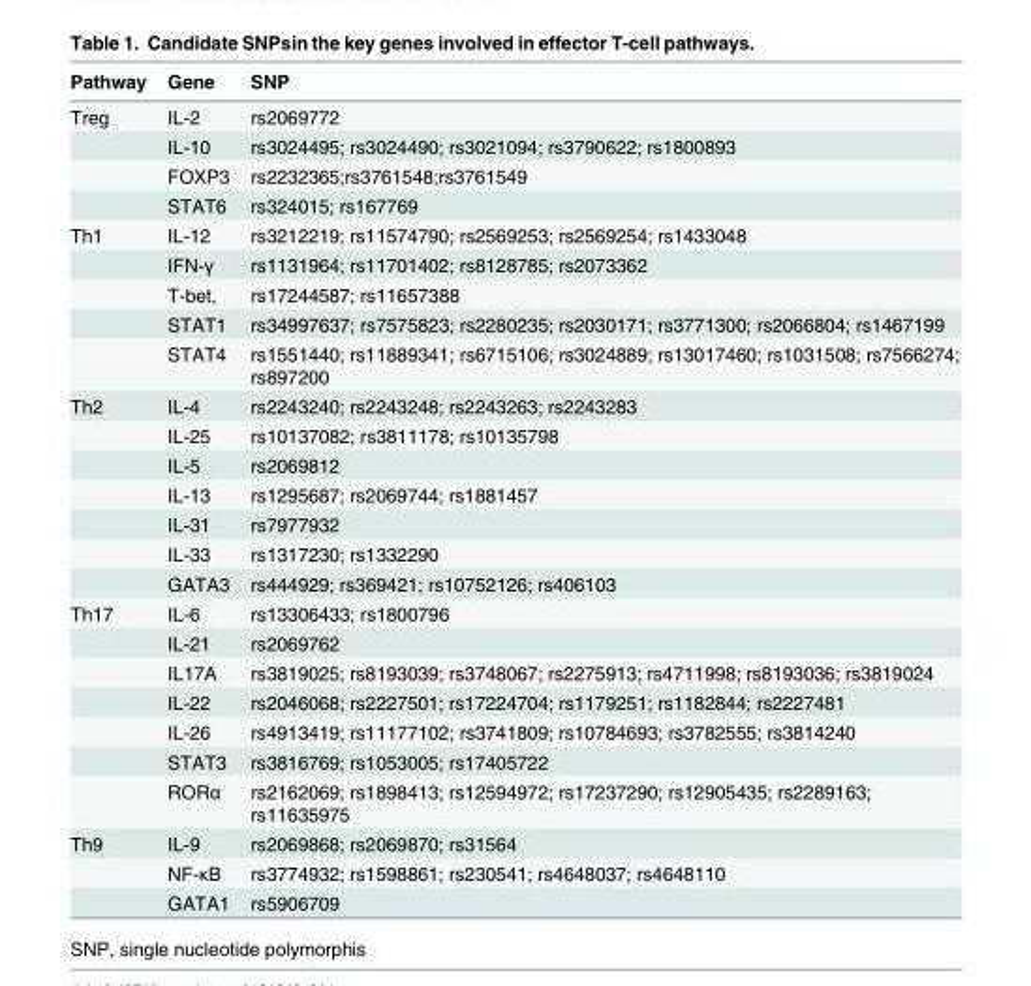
<table><thead><tr><td>Pathway</td><td>Gene</td><td>SNP</td></tr></thead><tbody><tr><td rowspan="4">Treg</td><td>IL-2</td><td>rs2069772</td></tr><tr><td>IL-10</td><td>rs3024495; rs3024490; rs3021094; rs3790622; rs1800893</td></tr><tr><td>FOXP3</td><td>rs2232365;rs3761548;rs3761549</td></tr><tr><td>STAT6</td><td>rs324015; rs167769</td></tr><tr><td rowspan="5">Th1</td><td>IL-12</td><td>rs3212219; rs11574790; rs2569253; rs2569254; rs1433048</td></tr><tr><td>IFN-γ</td><td>rs1131964; rs11701402; rs8128785; rs2073362</td></tr><tr><td>T-bet,</td><td>rs17244587; rs11657388</td></tr><tr><td>STAT1</td><td>rs34997637; rs7575823; rs2280235; rs2030171; rs3771300; rs2066804; rs1467199</td></tr><tr><td>STAT4</td><td>rs1551440; rs11889341; rs6715106; rs3024889; rs13017460; rs1031508; rs7566274; rs897200</td></tr><tr><td rowspan="7">Th2</td><td>IL-4</td><td>rs2243240; rs2243248; rs2243263; rs2243283</td></tr><tr><td>IL-25</td><td>rs10137082; rs3811178; rs10135798</td></tr><tr><td>IL-5</td><td>rs2069812</td></tr><tr><td>IL-13</td><td>rs1295687; rs2069744; rs1881457</td></tr><tr><td>IL-31</td><td>rs7977932</td></tr><tr><td>IL-33</td><td>rs1317230; rs1332290</td></tr><tr><td>GATA3</td><td>rs444929; rs369421; rs10752126; rs406103</td></tr><tr><td rowspan="7">Th17</td><td>IL-6</td><td>rs13306433; rs1800796</td></tr><tr><td>IL-21</td><td>rs2069762</td></tr><tr><td>IL17A</td><td>rs3819025; rs8193039; rs3748067; rs2275913; rs4711998; rs8193036; rs3819024</td></tr><tr><td>IL-22</td><td>rs2046068; rs2227501; rs17224704; rs1179251; rs1182844; rs2227481</td></tr><tr><td>IL-26</td><td>rs4913419; rs11177102; rs3741809; rs10784693; rs3782555; rs3814240</td></tr><tr><td>STAT3</td><td>rs3816769; rs1053005; rs17405722</td></tr><tr><td>RORα</td><td>rs2162069; rs1898413; rs12594972; rs17237290; rs12905435; rs2289163; rs11635975</td></tr><tr><td rowspan="3">Th9</td><td>IL-9</td><td>rs2069868; rs2069870; rs31564</td></tr><tr><td>NF-κB</td><td>rs3774932; rs1598861; rs230541; rs4648037; rs4648110</td></tr><tr><td>GATA1</td><td>rs5906709</td></tr></tbody></table>